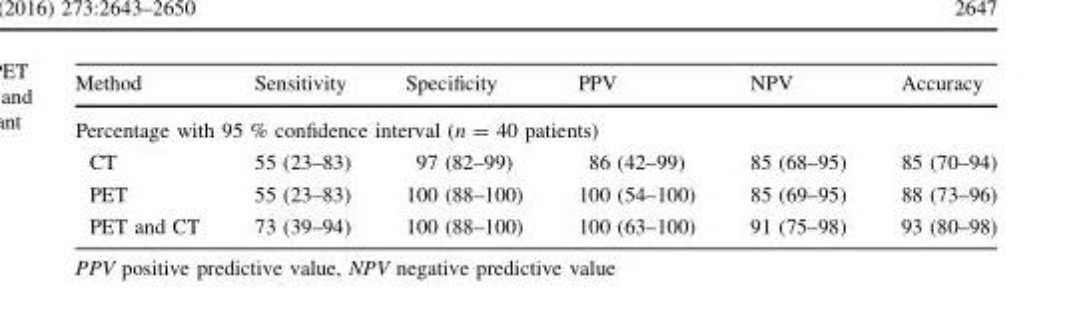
<table><thead><tr><td>Method</td><td>Sensitivity</td><td>Specificity</td><td>PPV</td><td>NPV</td><td>Accuracy</td></tr></thead><tbody><tr><td colspan="6">Percentage with 95 % confidence interval (n = 40 patients)</td></tr><tr><td>CT</td><td>55 (23–83)</td><td>97 (82–99)</td><td>86 (42–99)</td><td>85 (68–95)</td><td>85 (70–94)</td></tr><tr><td>PET</td><td>55 (23–83)</td><td>100 (88–100)</td><td>100 (54–100)</td><td>85 (69–95)</td><td>88 (73–96)</td></tr><tr><td>PET and CT</td><td>73 (39–94)</td><td>100 (88–100)</td><td>100 (63–100)</td><td>91 (75–98)</td><td>93 (80–98)</td></tr></tbody></table>